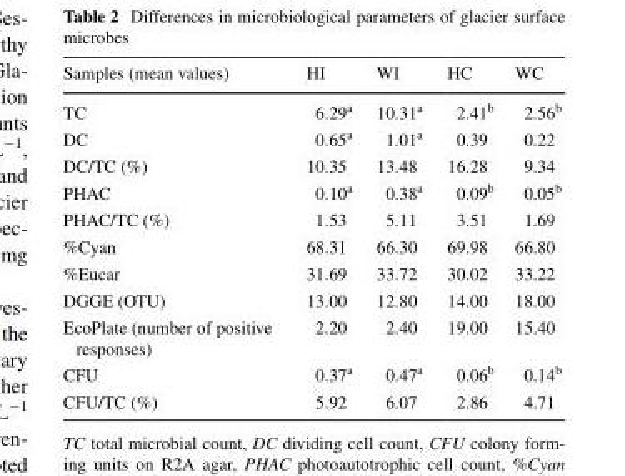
<table><thead><tr><td>Samples (mean values)</td><td>HI</td><td>WI</td><td>HC</td><td>WC</td></tr></thead><tbody><tr><td>TC</td><td>6.29<sup>a</sup></td><td>10.31<sup>a</sup></td><td>2.41<sup>b</sup></td><td>2.56<sup>b</sup></td></tr><tr><td>DC</td><td>0.65<sup>a</sup></td><td>1.01<sup>a</sup></td><td>0.39</td><td>0.22</td></tr><tr><td>DC/TC (%)</td><td>10.35</td><td>13.48</td><td>16.28</td><td>9.34</td></tr><tr><td>PHAC</td><td>0.10<sup>a</sup></td><td>0.38<sup>a</sup></td><td>0.09<sup>b</sup></td><td>0.05<sup>b</sup></td></tr><tr><td>PHAC/TC (%)</td><td>1.53</td><td>5.11</td><td>3.51</td><td>1.69</td></tr><tr><td>%Cyan</td><td>68.31</td><td>66.30</td><td>69.98</td><td>66.80</td></tr><tr><td>%Eucar</td><td>31.69</td><td>33.72</td><td>30.02</td><td>33.22</td></tr><tr><td>DGGE (OTU)</td><td>13.00</td><td>12.80</td><td>14.00</td><td>18.00</td></tr><tr><td>EcoPlate (number of positive responses)</td><td>2.20</td><td>2.40</td><td>19.00</td><td>15.40</td></tr><tr><td>CFU</td><td>0.37<sup>a</sup></td><td>0.47<sup>a</sup></td><td>0.06<sup>b</sup></td><td>0.14<sup>b</sup></td></tr><tr><td>CFU/TC (%)</td><td>5.92</td><td>6.07</td><td>2.86</td><td>4.71</td></tr></tbody></table>